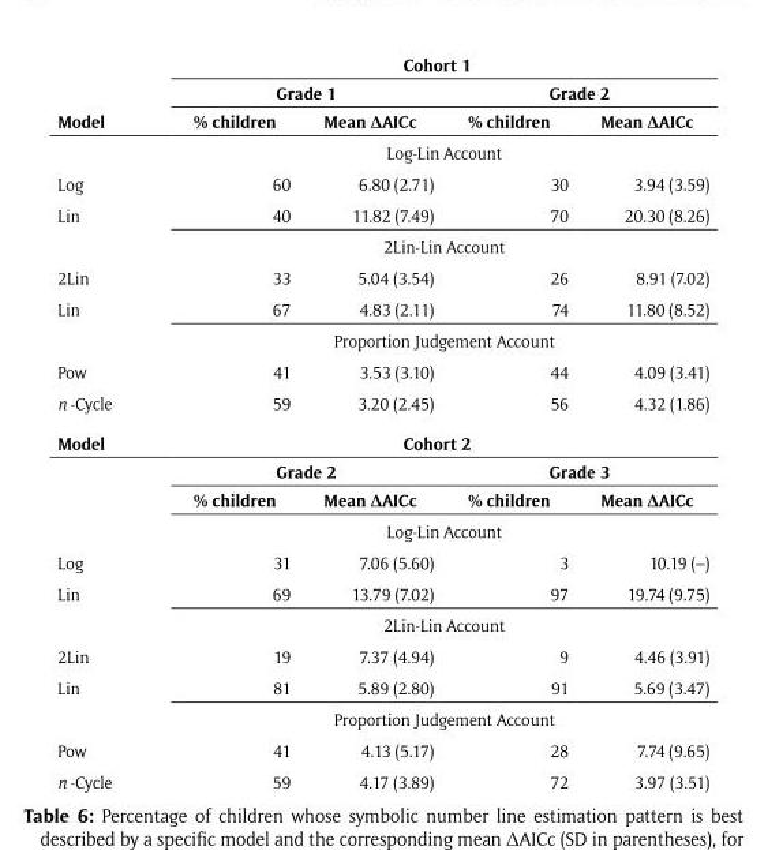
<table><thead><tr><td rowspan="3">Model</td><td colspan="4">Cohort 1</td></tr><tr><td colspan="2">Grade 1</td><td colspan="2">Grade 2</td></tr><tr><td>% children</td><td>Mean ΔAICc</td><td>% children</td><td>Mean ΔAICc</td></tr></thead><tbody><tr><td colspan="5">Log-Lin Account</td></tr><tr><td>Log</td><td>60</td><td>6.80 (2.71)</td><td>30</td><td>3.94 (3.59)</td></tr><tr><td>Lin</td><td>40</td><td>11.82 (7.49)</td><td>70</td><td>20.30 (8.26)</td></tr><tr><td colspan="5">2Lin-Lin Account</td></tr><tr><td>2Lin</td><td>33</td><td>5.04 (3.54)</td><td>26</td><td>8.91 (7.02)</td></tr><tr><td>Lin</td><td>67</td><td>4.83 (2.11)</td><td>74</td><td>11.80 (8.52)</td></tr><tr><td colspan="5">Proportion Judgement Account</td></tr><tr><td>Pow</td><td>41</td><td>3.53 (3.10)</td><td>44</td><td>4.09 (3.41)</td></tr><tr><td>n -Cycle</td><td>59</td><td>3.20 (2.45)</td><td>56</td><td>4.32 (1.86)</td></tr><tr><td rowspan="3">Model</td><td colspan="4">Cohort 2</td></tr><tr><td colspan="2">Grade 2</td><td colspan="2">Grade 3</td></tr><tr><td>% children</td><td>Mean ΔAICc</td><td>% children</td><td>Mean ΔAICc</td></tr><tr><td colspan="5">Log-Lin Account</td></tr><tr><td>Log</td><td>31</td><td>7.06 (5.60)</td><td>3</td><td>10.19 (–)</td></tr><tr><td>Lin</td><td>69</td><td>13.79 (7.02)</td><td>97</td><td>19.74 (9.75)</td></tr><tr><td colspan="5">2Lin-Lin Account</td></tr><tr><td>2Lin</td><td>19</td><td>7.37 (4.94)</td><td>9</td><td>4.46 (3.91)</td></tr><tr><td>Lin</td><td>81</td><td>5.89 (2.80)</td><td>91</td><td>5.69 (3.47)</td></tr><tr><td colspan="5">Proportion Judgement Account</td></tr><tr><td>Pow</td><td>41</td><td>4.13 (5.17)</td><td>28</td><td>7.74 (9.65)</td></tr><tr><td>n -Cycle</td><td>59</td><td>4.17 (3.89)</td><td>72</td><td>3.97 (3.51)</td></tr></tbody></table>